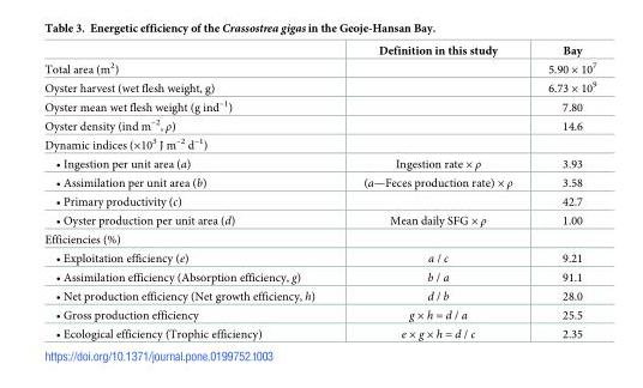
<table><thead><tr><td></td><td>Definition in this study</td><td>Bay</td></tr></thead><tbody><tr><td>Total area (m<sup>2</sup>)</td><td></td><td>5.90 × 10<sup>7</sup></td></tr><tr><td>Oyster harvest (wet flesh weight, g)</td><td></td><td>6.73 × 10<sup>9</sup></td></tr><tr><td>Oyster mean wet flesh weight (g ind<sup>–1</sup>)</td><td></td><td>7.80</td></tr><tr><td>Oyster density (ind m<sup>–2</sup>, ρ)</td><td></td><td>14.6</td></tr><tr><td colspan="3">Dynamic indices (×10<sup>3</sup> J m<sup>–2</sup> d<sup>–1</sup>)</td></tr><tr><td>• Ingestion per unit area (a)</td><td>Ingestion rate × ρ</td><td>3.93</td></tr><tr><td>• Assimilation per unit area (b)</td><td>(a—Feces production rate) × ρ</td><td>3.58</td></tr><tr><td>• Primary productivity (c)</td><td></td><td>42.7</td></tr><tr><td>• Oyster production per unit area (d)</td><td>Mean daily SFG × ρ</td><td>1.00</td></tr><tr><td colspan="3">Efficiencies (%)</td></tr><tr><td>• Exploitation efficiency (e)</td><td>a / c</td><td>9.21</td></tr><tr><td>• Assimilation efficiency (Absorption efficiency, g)</td><td>b / a</td><td>91.1</td></tr><tr><td>• Net production efficiency (Net growth efficiency, h)</td><td>d / b</td><td>28.0</td></tr><tr><td>• Gross production efficiency</td><td>g × h = d / a</td><td>25.5</td></tr><tr><td>• Ecological efficiency (Trophic efficiency)</td><td>e × g × h = d / c</td><td>2.35</td></tr></tbody></table>